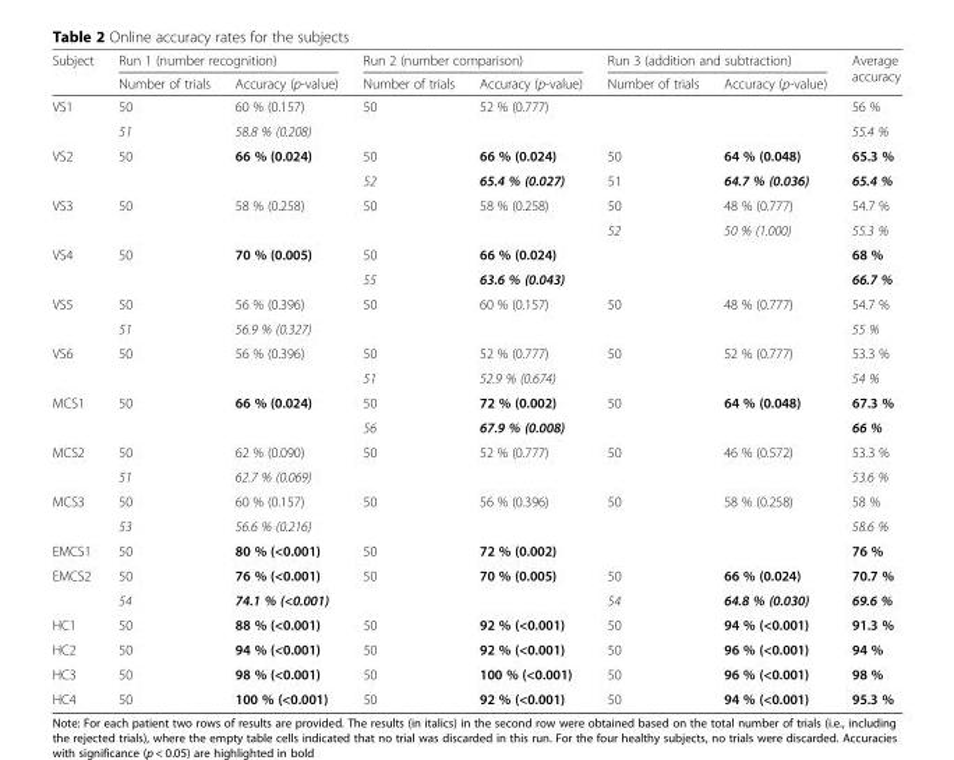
<table><thead><tr><td rowspan="2">Subject</td><td colspan="2">Run 1 (number recognition)</td><td colspan="2">Run 2 (number comparison)</td><td colspan="2">Run 3 (addition and subtraction)</td><td rowspan="2">Average accuracy</td></tr><tr><td>Number of trials</td><td>Accuracy (p-value)</td><td>Number of trials</td><td>Accuracy (p-value)</td><td>Number of trials</td><td>Accuracy (p-value)</td></tr></thead><tbody><tr><td rowspan="2">VS1</td><td>50</td><td>60 % (0.157)</td><td>50</td><td>52 % (0.777)</td><td></td><td></td><td>56 %</td></tr><tr><td>51</td><td>58.8 % (0.208)</td><td></td><td></td><td></td><td></td><td>55.4 %</td></tr><tr><td rowspan="2">VS2</td><td>50</td><td>66 % (0.024)</td><td>50</td><td>66 % (0.024)</td><td>50</td><td>64 % (0.048)</td><td>65.3 %</td></tr><tr><td></td><td></td><td>52</td><td>65.4 % (0.027)</td><td>51</td><td>64.7 % (0.036)</td><td>65.4 %</td></tr><tr><td rowspan="2">VS3</td><td>50</td><td>58 % (0.258)</td><td>50</td><td>58 % (0.258)</td><td>50</td><td>48 % (0.777)</td><td>54.7 %</td></tr><tr><td></td><td></td><td></td><td></td><td>52</td><td>50 % (1.000)</td><td>55.3 %</td></tr><tr><td rowspan="2">VS4</td><td>50</td><td>70 % (0.005)</td><td>50</td><td>66 % (0.024)</td><td></td><td></td><td>68 %</td></tr><tr><td></td><td></td><td>55</td><td>63.6 % (0.043)</td><td></td><td></td><td>66.7 %</td></tr><tr><td rowspan="2">VS5</td><td>50</td><td>56 % (0.396)</td><td>50</td><td>60 % (0.157)</td><td>50</td><td>48 % (0.777)</td><td>54.7 %</td></tr><tr><td>51</td><td>56.9 % (0.327)</td><td></td><td></td><td></td><td></td><td>55 %</td></tr><tr><td rowspan="2">VS6</td><td>50</td><td>56 % (0.396)</td><td>50</td><td>52 % (0.777)</td><td>50</td><td>52 % (0.777)</td><td>53.3 %</td></tr><tr><td></td><td></td><td>51</td><td>52.9 % (0.674)</td><td></td><td></td><td>54 %</td></tr><tr><td rowspan="2">MCS1</td><td>50</td><td>66 % (0.024)</td><td>50</td><td>72 % (0.002)</td><td>50</td><td>64 % (0.048)</td><td>67.3 %</td></tr><tr><td></td><td></td><td>56</td><td>67.9 % (0.008)</td><td></td><td></td><td>66 %</td></tr><tr><td rowspan="2">MCS2</td><td>50</td><td>62 % (0.090)</td><td>50</td><td>52 % (0.777)</td><td>50</td><td>46 % (0.572)</td><td>53.3 %</td></tr><tr><td>51</td><td>62.7 % (0.069)</td><td></td><td></td><td></td><td></td><td>53.6 %</td></tr><tr><td rowspan="2">MCS3</td><td>50</td><td>60 % (0.157)</td><td>50</td><td>56 % (0.396)</td><td>50</td><td>58 % (0.258)</td><td>58 %</td></tr><tr><td>53</td><td>56.6 % (0.216)</td><td></td><td></td><td></td><td></td><td>58.6 %</td></tr><tr><td>EMCS1</td><td>50</td><td>80 % (&lt;0.001)</td><td>50</td><td>72 % (0.002)</td><td></td><td></td><td>76 %</td></tr><tr><td rowspan="2">EMCS2</td><td>50</td><td>76 % (&lt;0.001)</td><td>50</td><td>70 % (0.005)</td><td>50</td><td>66 % (0.024)</td><td>70.7 %</td></tr><tr><td>54</td><td>74.1 % (&lt;0.001)</td><td></td><td></td><td>54</td><td>64.8 % (0.030)</td><td>69.6 %</td></tr><tr><td>HC1</td><td>50</td><td>88 % (&lt;0.001)</td><td>50</td><td>92 % (&lt;0.001)</td><td>50</td><td>94 % (&lt;0.001)</td><td>91.3 %</td></tr><tr><td>HC2</td><td>50</td><td>94 % (&lt;0.001)</td><td>50</td><td>92 % (&lt;0.001)</td><td>50</td><td>96 % (&lt;0.001)</td><td>94 %</td></tr><tr><td>HC3</td><td>50</td><td>98 % (&lt;0.001)</td><td>50</td><td>100 % (&lt;0.001)</td><td>50</td><td>96 % (&lt;0.001)</td><td>98 %</td></tr><tr><td>HC4</td><td>50</td><td>100 % (&lt;0.001)</td><td>50</td><td>92 % (&lt;0.001)</td><td>50</td><td>94 % (&lt;0.001)</td><td>95.3 %</td></tr></tbody></table>